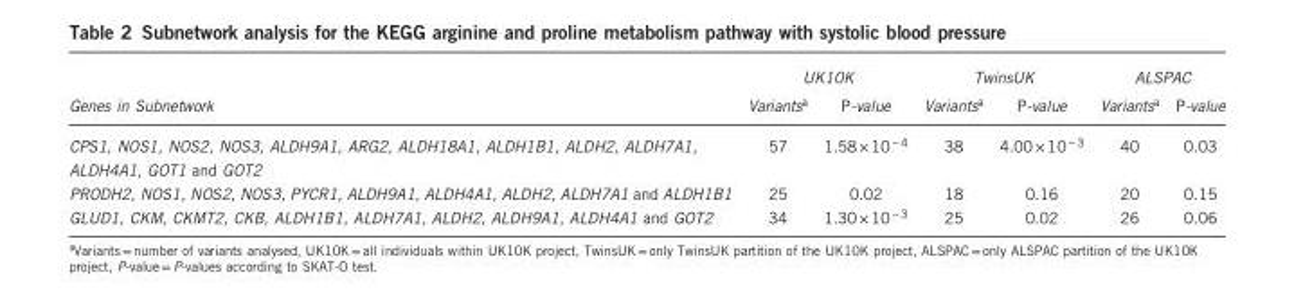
<table><thead><tr><td rowspan="2">Genes in Subnetwork</td><td colspan="2">UK10K</td><td colspan="2">TwinsUK</td><td colspan="2">ALSPAC</td></tr><tr><td>Variants<sup>a</sup></td><td>P-value</td><td>Variants<sup>a</sup></td><td>P-value</td><td>Variants<sup>a</sup></td><td>P-value</td></tr></thead><tbody><tr><td>CPS1, NOS1, NOS2, NOS3, ALDH9A1, ARG2, ALDH18A1, ALDH1B1, ALDH2, ALDH7A1, ALDH4A1, GOT1 and GOT2</td><td>57</td><td>1.58× 10<sup>− 4</sup></td><td>38</td><td>4.00× 10<sup>− 3</sup></td><td>40</td><td>0.03</td></tr><tr><td>PRODH2, NOS1, NOS2, NOS3, PYCR1, ALDH9A1, ALDH4A1, ALDH2, ALDH7A1 and ALDH1B1</td><td>25</td><td>0.02</td><td>18</td><td>0.16</td><td>20</td><td>0.15</td></tr><tr><td>GLUD1, CKM, CKMT2, CKB, ALDH1B1, ALDH7A1, ALDH2, ALDH9A1, ALDH4A1 and GOT2</td><td>34</td><td>1.30× 10<sup>− 3</sup></td><td>25</td><td>0.02</td><td>26</td><td>0.06</td></tr></tbody></table>